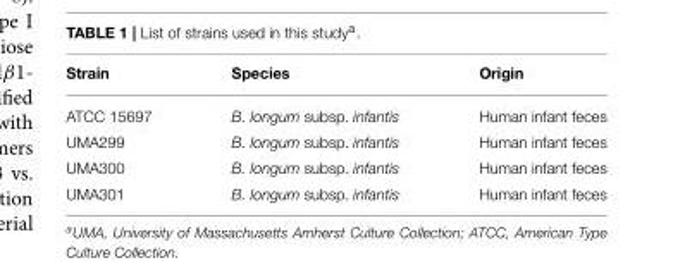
<table><thead><tr><td>Strain</td><td>Species</td><td>Origin</td></tr></thead><tbody><tr><td>ATCC 15697</td><td>B. longum subsp. infantis</td><td>Human infant feces</td></tr><tr><td>UMA299</td><td>B. longum subsp. infantis</td><td>Human infant feces</td></tr><tr><td>UMA300</td><td>B. longum subsp. infantis</td><td>Human infant feces</td></tr><tr><td>UMA301</td><td>B. longum subsp. infantis</td><td>Human infant feces</td></tr></tbody></table>